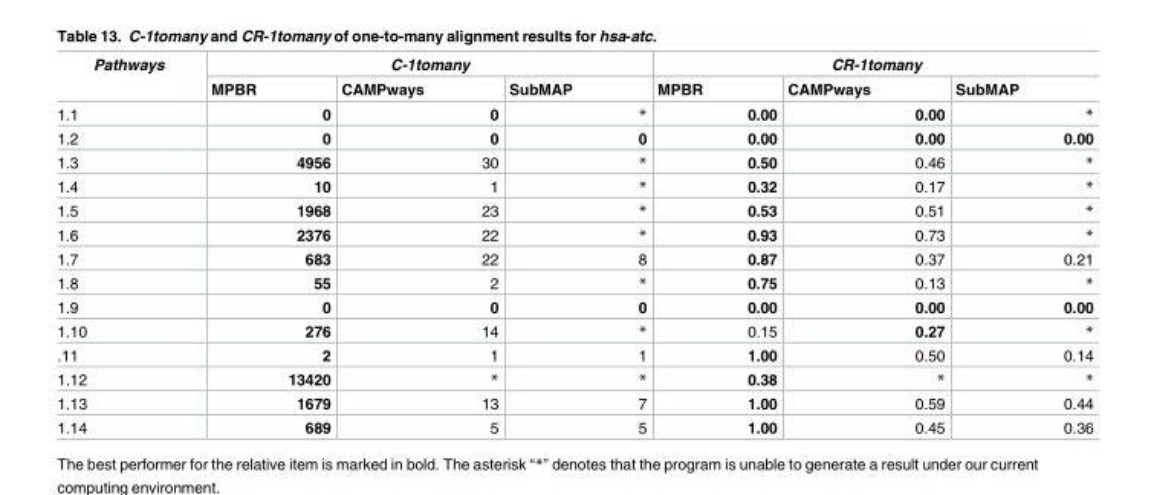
<table><thead><tr><td rowspan="2">Pathways</td><td colspan="3">C-1tomany</td><td colspan="3">CR-1tomany</td></tr><tr><td>MPBR</td><td>CAMPways</td><td>SubMAP</td><td>MPBR</td><td>CAMPways</td><td>SubMAP</td></tr></thead><tbody><tr><td>1.1</td><td>0</td><td>0</td><td>*</td><td>0.00</td><td>0.00</td><td>*</td></tr><tr><td>1.2</td><td>0</td><td>0</td><td>0</td><td>0.00</td><td>0.00</td><td>0.00</td></tr><tr><td>1.3</td><td>4956</td><td>30</td><td>*</td><td>0.50</td><td>0.46</td><td>*</td></tr><tr><td>1.4</td><td>10</td><td>1</td><td>*</td><td>0.32</td><td>0.17</td><td>*</td></tr><tr><td>1.5</td><td>1968</td><td>23</td><td>*</td><td>0.53</td><td>0.51</td><td>*</td></tr><tr><td>1.6</td><td>2376</td><td>22</td><td>*</td><td>0.93</td><td>0.73</td><td>*</td></tr><tr><td>1.7</td><td>683</td><td>22</td><td>8</td><td>0.87</td><td>0.37</td><td>0.21</td></tr><tr><td>1.8</td><td>55</td><td>2</td><td>*</td><td>0.75</td><td>0.13</td><td>*</td></tr><tr><td>1.9</td><td>0</td><td>0</td><td>0</td><td>0.00</td><td>0.00</td><td>0.00</td></tr><tr><td>1.10</td><td>276</td><td>14</td><td>*</td><td>0.15</td><td>0.27</td><td>*</td></tr><tr><td>.11</td><td>2</td><td>1</td><td>1</td><td>1.00</td><td>0.50</td><td>0.14</td></tr><tr><td>1.12</td><td>13420</td><td>*</td><td>*</td><td>0.38</td><td>*</td><td>*</td></tr><tr><td>1.13</td><td>1679</td><td>13</td><td>7</td><td>1.00</td><td>0.59</td><td>0.44</td></tr><tr><td>1.14</td><td>689</td><td>5</td><td>5</td><td>1.00</td><td>0.45</td><td>0.36</td></tr></tbody></table>